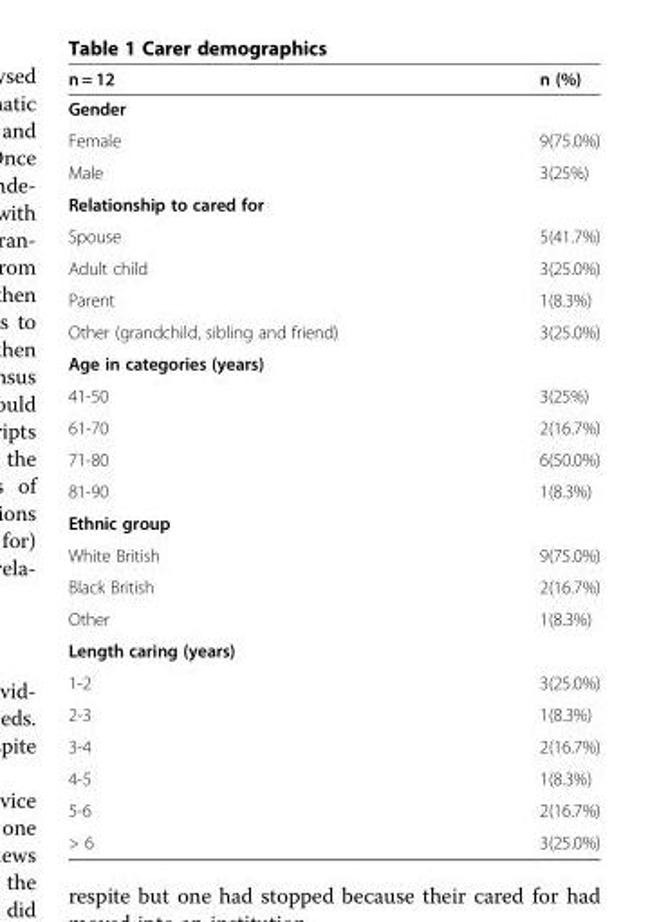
<table><thead><tr><td>n = 12</td><td>n (%)</td></tr></thead><tbody><tr><td colspan="2">Gender</td></tr><tr><td>Female</td><td>9(75.0%)</td></tr><tr><td>Male</td><td>3(25%)</td></tr><tr><td colspan="2">Relationship to cared for</td></tr><tr><td>Spouse</td><td>5(41.7%)</td></tr><tr><td>Adult child</td><td>3(25.0%)</td></tr><tr><td>Parent</td><td>1(8.3%)</td></tr><tr><td>Other (grandchild, sibling and friend)</td><td>3(25.0%)</td></tr><tr><td colspan="2">Age in categories (years)</td></tr><tr><td>41-50</td><td>3(25%)</td></tr><tr><td>61-70</td><td>2(16.7%)</td></tr><tr><td>71-80</td><td>6(50.0%)</td></tr><tr><td>81-90</td><td>1(8.3%)</td></tr><tr><td colspan="2">Ethnic group</td></tr><tr><td>White British</td><td>9(75.0%)</td></tr><tr><td>Black British</td><td>2(16.7%)</td></tr><tr><td>Other</td><td>1(8.3%)</td></tr><tr><td colspan="2">Length caring (years)</td></tr><tr><td>1-2</td><td>3(25.0%)</td></tr><tr><td>2-3</td><td>1(8.3%)</td></tr><tr><td>3-4</td><td>2(16.7%)</td></tr><tr><td>4-5</td><td>1(8.3%)</td></tr><tr><td>5-6</td><td>2(16.7%)</td></tr><tr><td>&gt; 6</td><td>3(25.0%)</td></tr></tbody></table>